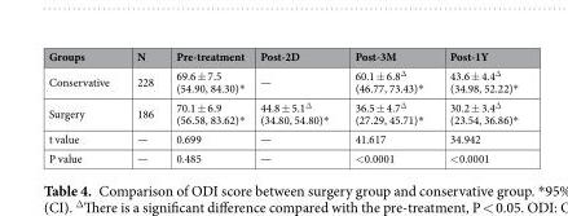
<table><thead><tr><td>Groups</td><td>N</td><td>Pre-treatment</td><td>Post-2D</td><td>Post-3M</td><td>Post-1Y</td></tr></thead><tbody><tr><td>Conservative</td><td>228</td><td>69.6 ± 7.5 (54.90, 84.30)*</td><td>—</td><td>60.1 ± 6.8<sup>Δ</sup> (46.77, 73.43)*</td><td>43.6 ± 4.4<sup>Δ</sup> (34.98, 52.22)*</td></tr><tr><td>Surgery</td><td>186</td><td>70.1 ± 6.9 (56.58, 83.62)*</td><td>44.8 ± 5.1<sup>Δ</sup> (34.80, 54.80)*</td><td>36.5 ± 4.7<sup>Δ</sup> (27.29, 45.71)*</td><td>30.2 ± 3.4<sup>Δ</sup> (23.54, 36.86)*</td></tr><tr><td>t value</td><td>—</td><td>0.699</td><td>—</td><td>41.617</td><td>34.942</td></tr><tr><td>P value</td><td>—</td><td>0.485</td><td>—</td><td>&lt;0.0001</td><td>&lt;0.0001</td></tr></tbody></table>